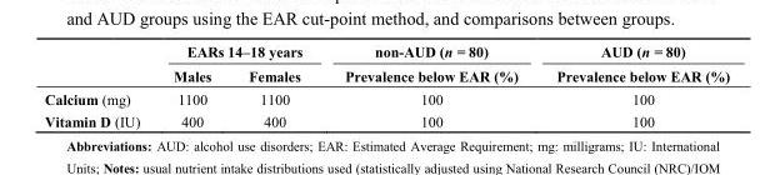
<table><thead><tr><td rowspan="2"></td><td colspan="2">EARs 14–18 years</td><td rowspan="2">non-AUD (n = 80) Prevalence below EAR (%)</td><td rowspan="2">AUD (n = 80) Prevalence below EAR (%)</td></tr><tr><td>Males</td><td>Females</td></tr></thead><tbody><tr><td>Calcium (mg)</td><td>1100</td><td>1100</td><td>100</td><td>100</td></tr><tr><td>Vitamin D (IU)</td><td>400</td><td>400</td><td>100</td><td>100</td></tr></tbody></table>